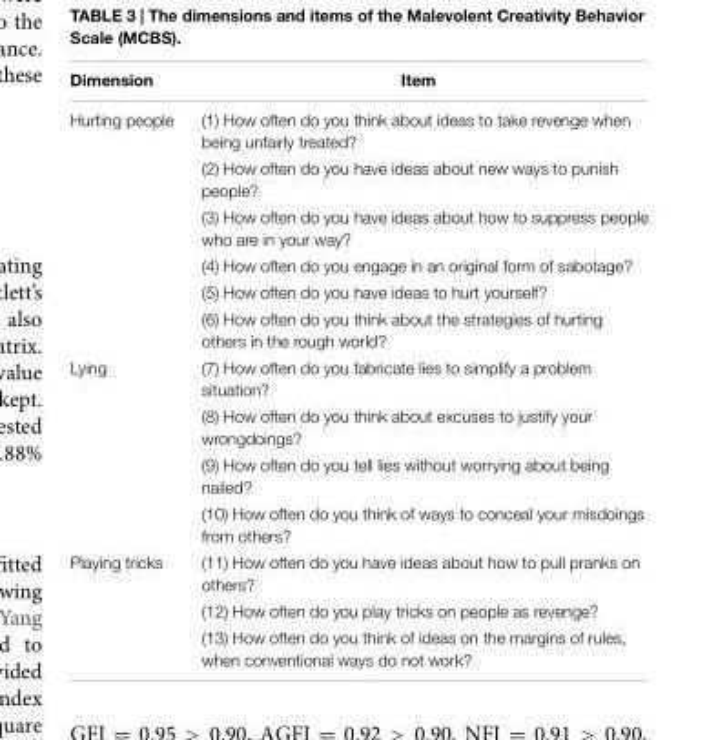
<table><thead><tr><td>Dimension</td><td>Item</td></tr></thead><tbody><tr><td rowspan="6">Hurting people</td><td>(1) How often do you think about ideas to take revenge when being unfairly treated?</td></tr><tr><td>(2) How often do you have ideas about new ways to punish people?</td></tr><tr><td>(3) How often do you have ideas about how to suppress people who are in your way?</td></tr><tr><td>(4) How often do you engage in an original form of sabotage?</td></tr><tr><td>(5) How often do you have ideas to hurt yourself?</td></tr><tr><td>(6) How often do you think about the strategies of hurting others in the rough world?</td></tr><tr><td rowspan="4">Lying</td><td>(7) How often do you fabricate lies to simplify a problem situation?</td></tr><tr><td>(8) How often do you think about excuses to justify your wrongdoings?</td></tr><tr><td>(9) How often do you tell lies without worrying about being nailed?</td></tr><tr><td>(10) How often do you think of ways to conceal your misdoings from others?</td></tr><tr><td rowspan="3">Playing tricks</td><td>(11) How often do you have ideas about how to pull pranks on others?</td></tr><tr><td>(12) How often do you play tricks on people as revenge?</td></tr><tr><td>(13) How often do you think of ideas on the margins of rules, when conventional ways do not work?</td></tr></tbody></table>